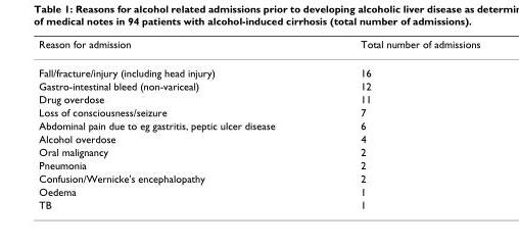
<table><thead><tr><td>Reason for admission</td><td>Total number of admissions</td></tr></thead><tbody><tr><td>Fall/fracture/injury (including head injury)</td><td>16</td></tr><tr><td>Gastro-intestinal bleed (non-variceal)</td><td>12</td></tr><tr><td>Drug overdose</td><td>11</td></tr><tr><td>Loss of consciousness/seizure</td><td>7</td></tr><tr><td>Abdominal pain due to eg gastritis, peptic ulcer disease</td><td>6</td></tr><tr><td>Alcohol overdose</td><td>4</td></tr><tr><td>Oral malignancy</td><td>2</td></tr><tr><td>Pneumonia</td><td>2</td></tr><tr><td>Confusion/Wernicke&#x27;s encephalopathy</td><td>2</td></tr><tr><td>Oedema</td><td>1</td></tr><tr><td>TB</td><td>1</td></tr></tbody></table>